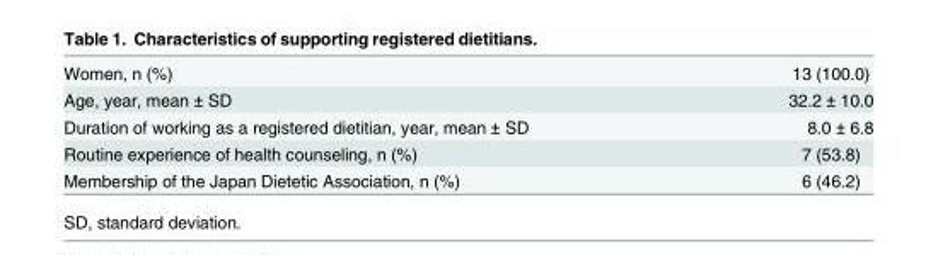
<table><tbody><tr><td>Women, n (%)</td><td>13 (100.0)</td></tr><tr><td>Age, year, mean ± SD</td><td>32.2 ± 10.0</td></tr><tr><td>Duration of working as a registered dietitian, year, mean ± SD</td><td>8.0 ± 6.8</td></tr><tr><td>Routine experience of health counseling, n (%)</td><td>7 (53.8)</td></tr><tr><td>Membership of the Japan Dietetic Association, n (%)</td><td>6 (46.2)</td></tr></tbody></table>